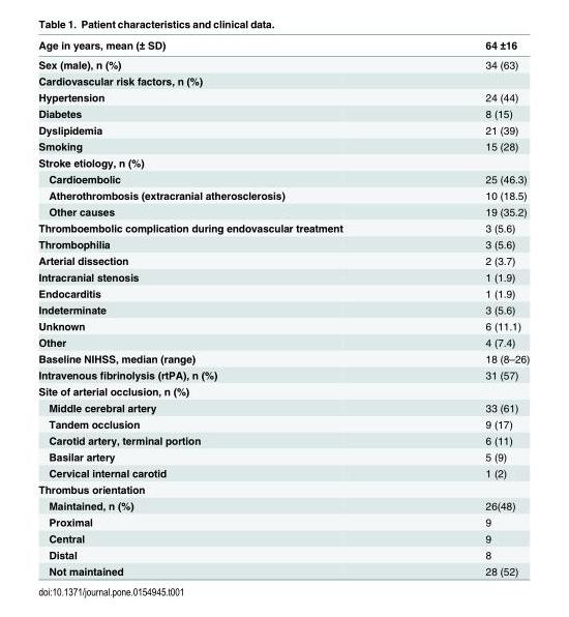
<table><thead><tr><td>Age in years, mean (± SD)</td><td>64 ±16</td></tr></thead><tbody><tr><td>Sex (male), n (%)</td><td>34 (63)</td></tr><tr><td colspan="2">Cardiovascular risk factors, n (%)</td></tr><tr><td>Hypertension</td><td>24 (44)</td></tr><tr><td>Diabetes</td><td>8 (15)</td></tr><tr><td>Dyslipidemia</td><td>21 (39)</td></tr><tr><td>Smoking</td><td>15 (28)</td></tr><tr><td colspan="2">Stroke etiology, n (%)</td></tr><tr><td>Cardioembolic</td><td>25 (46.3)</td></tr><tr><td>Atherothrombosis (extracranial atherosclerosis)</td><td>10 (18.5)</td></tr><tr><td>Other causes</td><td>19 (35.2)</td></tr><tr><td>Thromboembolic complication during endovascular treatment</td><td>3 (5.6)</td></tr><tr><td>Thrombophilia</td><td>3 (5.6)</td></tr><tr><td>Arterial dissection</td><td>2 (3.7)</td></tr><tr><td>Intracranial stenosis</td><td>1 (1.9)</td></tr><tr><td>Endocarditis</td><td>1 (1.9)</td></tr><tr><td>Indeterminate</td><td>3 (5.6)</td></tr><tr><td>Unknown</td><td>6 (11.1)</td></tr><tr><td>Other</td><td>4 (7.4)</td></tr><tr><td>Baseline NIHSS, median (range)</td><td>18 (8–26)</td></tr><tr><td>Intravenous fibrinolysis (rtPA), n (%)</td><td>31 (57)</td></tr><tr><td colspan="2">Site of arterial occlusion, n (%)</td></tr><tr><td>Middle cerebral artery</td><td>33 (61)</td></tr><tr><td>Tandem occlusion</td><td>9 (17)</td></tr><tr><td>Carotid artery, terminal portion</td><td>6 (11)</td></tr><tr><td>Basilar artery</td><td>5 (9)</td></tr><tr><td>Cervical internal carotid</td><td>1 (2)</td></tr><tr><td colspan="2">Thrombus orientation</td></tr><tr><td>Maintained, n (%)</td><td>26(48)</td></tr><tr><td>Proximal</td><td>9</td></tr><tr><td>Central</td><td>9</td></tr><tr><td>Distal</td><td>8</td></tr><tr><td>Not maintained</td><td>28 (52)</td></tr></tbody></table>